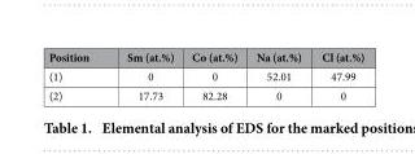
<table><thead><tr><td>Position</td><td>Sm (at.%)</td><td>Co (at.%)</td><td>Na (at.%)</td><td>Cl (at.%)</td></tr></thead><tbody><tr><td>(1)</td><td>0</td><td>0</td><td>52.01</td><td>47.99</td></tr><tr><td>(2)</td><td>17.73</td><td>82.28</td><td>0</td><td>0</td></tr></tbody></table>